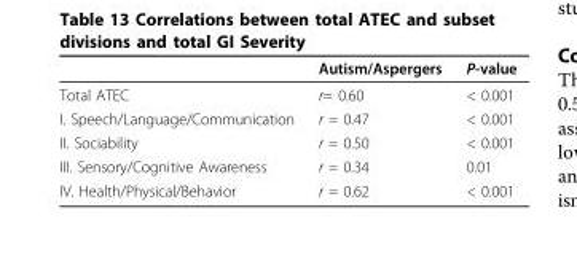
<table><thead><tr><td></td><td>Autism/Aspergers</td><td>P-value</td></tr></thead><tbody><tr><td>Total ATEC</td><td>r= 0.60</td><td>&lt; 0.001</td></tr><tr><td>I. Speech/Language/Communication</td><td>r = 0.47</td><td>&lt; 0.001</td></tr><tr><td>II. Sociability</td><td>r = 0.50</td><td>&lt; 0.001</td></tr><tr><td>III. Sensory/Cognitive Awareness</td><td>r = 0.34</td><td>0.01</td></tr><tr><td>IV. Health/Physical/Behavior</td><td>r = 0.62</td><td>&lt; 0.001</td></tr></tbody></table>